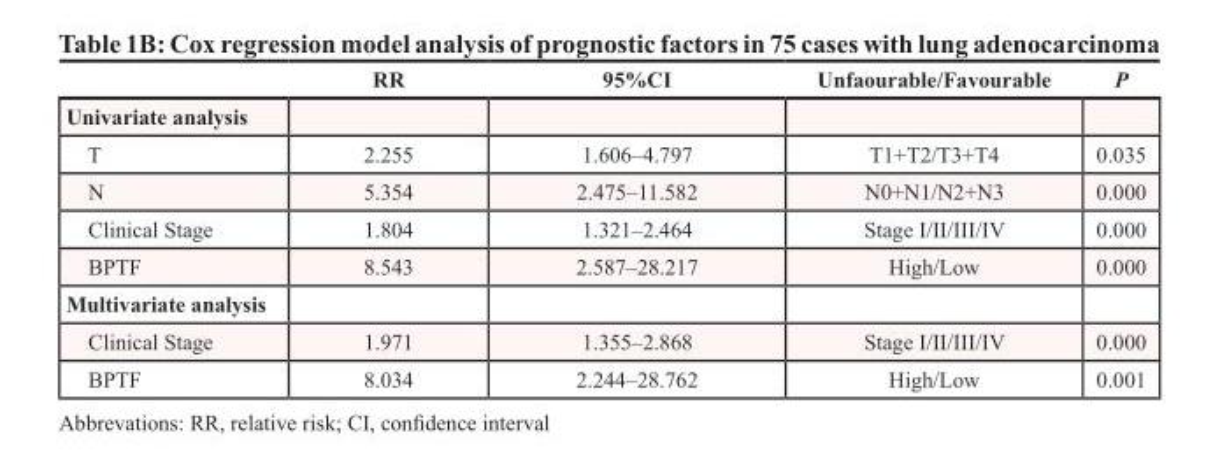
<table><thead><tr><td></td><td>RR</td><td>95%CI</td><td>Unfaourable/Favourable</td><td>P</td></tr></thead><tbody><tr><td colspan="5">Univariate analysis</td></tr><tr><td>T</td><td>2.255</td><td>1.606–4.797</td><td>T1+T2/T3+T4</td><td>0.035</td></tr><tr><td>N</td><td>5.354</td><td>2.475–11.582</td><td>N0+N1/N2+N3</td><td>0.000</td></tr><tr><td>Clinical Stage</td><td>1.804</td><td>1.321–2.464</td><td>Stage I/II/III/IV</td><td>0.000</td></tr><tr><td>BPTF</td><td>8.543</td><td>2.587–28.217</td><td>High/Low</td><td>0.000</td></tr><tr><td colspan="5">Multivariate analysis</td></tr><tr><td>Clinical Stage</td><td>1.971</td><td>1.355–2.868</td><td>Stage I/II/III/IV</td><td>0.000</td></tr><tr><td>BPTF</td><td>8.034</td><td>2.244–28.762</td><td>High/Low</td><td>0.001</td></tr></tbody></table>